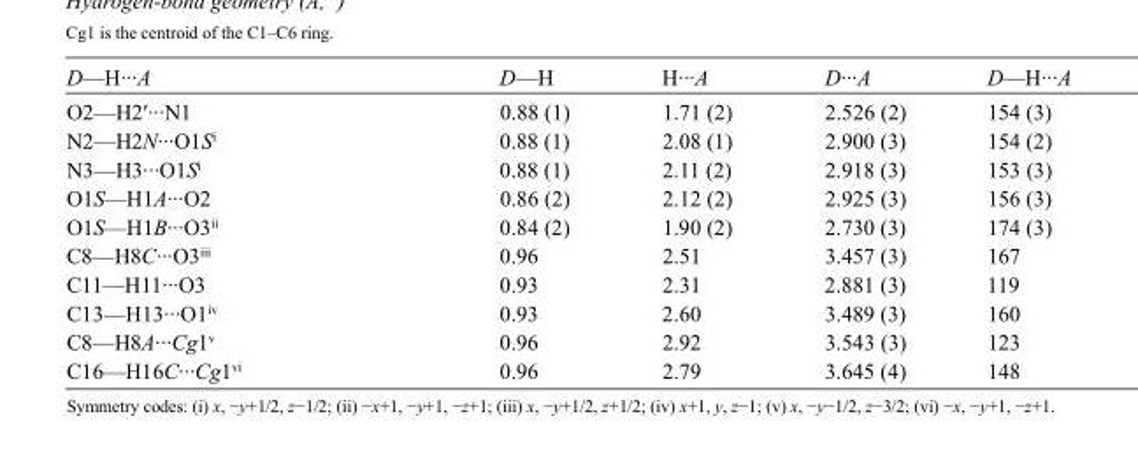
<table><tbody><tr><td>D—H···A</td><td>D—H</td><td>H···A</td><td>D···A</td><td>D—H···A</td></tr><tr><td>O2—H2′···N1</td><td>0.88 (1)</td><td>1.71 (2)</td><td>2.526 (2)</td><td>154 (3)</td></tr><tr><td>N2—H2N···O1S<sup>i</sup></td><td>0.88 (1)</td><td>2.08 (1)</td><td>2.900 (3)</td><td>154 (2)</td></tr><tr><td>N3—H3···O1S<sup>i</sup></td><td>0.88 (1)</td><td>2.11 (2)</td><td>2.918 (3)</td><td>153 (3)</td></tr><tr><td>O1S—H1A···O2</td><td>0.86 (2)</td><td>2.12 (2)</td><td>2.925 (3)</td><td>156 (3)</td></tr><tr><td>O1S—H1B···O3<sup>ii</sup></td><td>0.84 (2)</td><td>1.90 (2)</td><td>2.730 (3)</td><td>174 (3)</td></tr><tr><td>C8—H8C···O3<sup>iii</sup></td><td>0.96</td><td>2.51</td><td>3.457 (3)</td><td>167</td></tr><tr><td>C11—H11···O3</td><td>0.93</td><td>2.31</td><td>2.881 (3)</td><td>119</td></tr><tr><td>C13—H13···O1<sup>iv</sup></td><td>0.93</td><td>2.60</td><td>3.489 (3)</td><td>160</td></tr><tr><td>C8—H8A···Cg1<sup>v</sup></td><td>0.96</td><td>2.92</td><td>3.543 (3)</td><td>123</td></tr><tr><td>C16—H16C···Cg1<sup>vi</sup></td><td>0.96</td><td>2.79</td><td>3.645 (4)</td><td>148</td></tr></tbody></table>